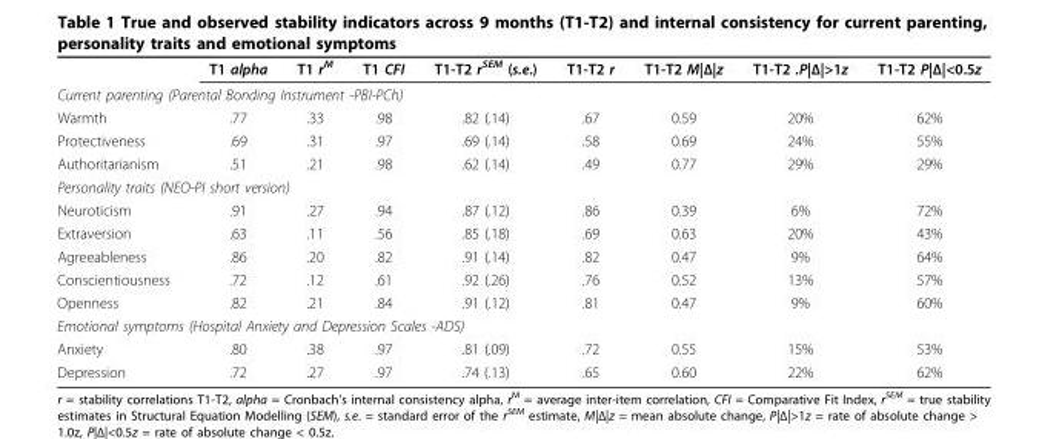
<table><thead><tr><td></td><td>T1 alpha</td><td>T1 r<sup>M</sup></td><td>T1 CFI</td><td>T1-T2 r<sup>SEM</sup> (s.e.)</td><td>T1-T2 r</td><td>T1-T2 M|Δ|z</td><td>T1-T2 .P|Δ|&gt;1z</td><td>T1-T2 P|Δ|&lt;0.5z</td></tr></thead><tbody><tr><td colspan="9">Current parenting (Parental Bonding Instrument -PBI-PCh)</td></tr><tr><td>Warmth</td><td>.77</td><td>.33</td><td>.98</td><td>.82 (.14)</td><td>.67</td><td>0.59</td><td>20%</td><td>62%</td></tr><tr><td>Protectiveness</td><td>.69</td><td>.31</td><td>.97</td><td>.69 (.14)</td><td>.58</td><td>0.69</td><td>24%</td><td>55%</td></tr><tr><td>Authoritarianism</td><td>.51</td><td>.21</td><td>.98</td><td>.62 (.14)</td><td>.49</td><td>0.77</td><td>29%</td><td>29%</td></tr><tr><td colspan="9">Personality traits (NEO-PI short version)</td></tr><tr><td>Neuroticism</td><td>.91</td><td>.27</td><td>.94</td><td>.87 (.12)</td><td>.86</td><td>0.39</td><td>6%</td><td>72%</td></tr><tr><td>Extraversion</td><td>.63</td><td>.11</td><td>.56</td><td>.85 (.18)</td><td>.69</td><td>0.63</td><td>20%</td><td>43%</td></tr><tr><td>Agreeableness</td><td>.86</td><td>.20</td><td>.82</td><td>.91 (.14)</td><td>.82</td><td>0.47</td><td>9%</td><td>64%</td></tr><tr><td>Conscientiousness</td><td>.72</td><td>.12</td><td>.61</td><td>.92 (.26)</td><td>.76</td><td>0.52</td><td>13%</td><td>57%</td></tr><tr><td>Openness</td><td>.82</td><td>.21</td><td>.84</td><td>.91 (.12)</td><td>.81</td><td>0.47</td><td>9%</td><td>60%</td></tr><tr><td colspan="9">Emotional symptoms (Hospital Anxiety and Depression Scales -ADS)</td></tr><tr><td>Anxiety</td><td>.80</td><td>.38</td><td>.97</td><td>.81 (.09)</td><td>.72</td><td>0.55</td><td>15%</td><td>53%</td></tr><tr><td>Depression</td><td>.72</td><td>.27</td><td>.97</td><td>.74 (.13)</td><td>.65</td><td>0.60</td><td>22%</td><td>62%</td></tr></tbody></table>